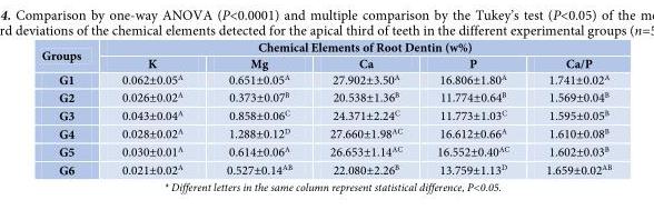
<table><thead><tr><td rowspan="2">Groups</td><td colspan="5">Chemical Elements of Root Dentin (w%)</td></tr><tr><td>K</td><td>Mg</td><td>Ca</td><td>P</td><td>Ca/P</td></tr></thead><tbody><tr><td>G1</td><td>0.062±0.05<sup>A</sup></td><td>0.651±0.05<sup>A</sup></td><td>27.902±3.50<sup>A</sup></td><td>16.806±1.80<sup>A</sup></td><td>1.741±0.02<sup>A</sup></td></tr><tr><td>G2</td><td>0.026±0.02<sup>A</sup></td><td>0.373±0.07<sup>B</sup></td><td>20.538±1.36<sup>B</sup></td><td>11.774±0.64<sup>B</sup></td><td>1.569±0.04<sup>B</sup></td></tr><tr><td>G3</td><td>0.043±0.04<sup>A</sup></td><td>0.858±0.06<sup>C</sup></td><td>24.371±2.24<sup>C</sup></td><td>11.773±1.03<sup>C</sup></td><td>1.595±0.05<sup>B</sup></td></tr><tr><td>G4</td><td>0.028±0.02<sup>A</sup></td><td>1.288±0.12<sup>D</sup></td><td>27.660±1.98<sup>AC</sup></td><td>16.612±0.66<sup>A</sup></td><td>1.610±0.08<sup>B</sup></td></tr><tr><td>G5</td><td>0.030±0.01<sup>A</sup></td><td>0.614±0.06<sup>A</sup></td><td>26.653±1.14<sup>AC</sup></td><td>16.552±0.40<sup>AC</sup></td><td>1.602±0.03<sup>B</sup></td></tr><tr><td>G6</td><td>0.021±0.02<sup>A</sup></td><td>0.527±0.14<sup>AB</sup></td><td>22.080±2.26<sup>B</sup></td><td>13.759±1.13<sup>D</sup></td><td>1.659±0.02<sup>AB</sup></td></tr></tbody></table>